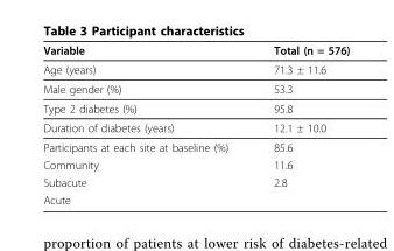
<table><thead><tr><td>Variable</td><td>Total (n = 576)</td></tr></thead><tbody><tr><td>Age (years)</td><td>71.3 ± 11.6</td></tr><tr><td>Male gender (%)</td><td>53.3</td></tr><tr><td>Type 2 diabetes (%)</td><td>95.8</td></tr><tr><td>Duration of diabetes (years)</td><td>12.1 ± 10.0</td></tr><tr><td>Participants at each site at baseline (%)</td><td>85.6</td></tr><tr><td>Community</td><td>11.6</td></tr><tr><td>Subacute</td><td>2.8</td></tr><tr><td>Acute</td><td></td></tr></tbody></table>